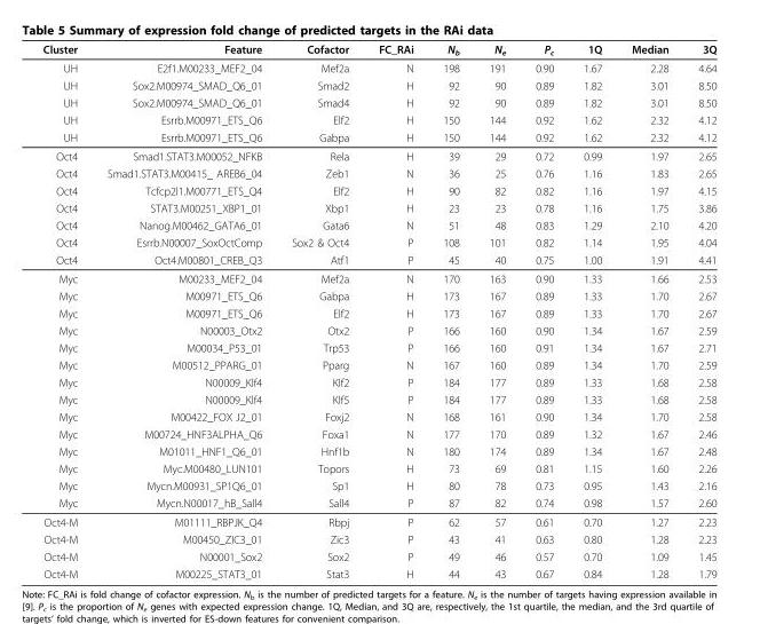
<table><thead><tr><td>Cluster</td><td>Feature</td><td>Cofactor</td><td>FC_RAi</td><td>N<sub>b</sub></td><td>N<sub>e</sub></td><td>P<sub>c</sub></td><td>1Q</td><td>Median</td><td>3Q</td></tr></thead><tbody><tr><td>UH</td><td>E2f1.M00233_MEF2_04</td><td>Mef2a</td><td>N</td><td>198</td><td>191</td><td>0.90</td><td>1.67</td><td>2.28</td><td>4.64</td></tr><tr><td>UH</td><td>Sox2.M00974_SMAD_Q6_01</td><td>Smad2</td><td>H</td><td>92</td><td>90</td><td>0.89</td><td>1.82</td><td>3.01</td><td>8.50</td></tr><tr><td>UH</td><td>Sox2.M00974_SMAD_Q6_01</td><td>Smad4</td><td>H</td><td>92</td><td>90</td><td>0.89</td><td>1.82</td><td>3.01</td><td>8.50</td></tr><tr><td>UH</td><td>Esrrb.M00971_ETS_Q6</td><td>Elf2</td><td>H</td><td>150</td><td>144</td><td>0.92</td><td>1.62</td><td>2.32</td><td>4.12</td></tr><tr><td>UH</td><td>Esrrb.M00971_ETS_Q6</td><td>Gabpa</td><td>H</td><td>150</td><td>144</td><td>0.92</td><td>1.62</td><td>2.32</td><td>4.12</td></tr><tr><td>Oct4</td><td>Smad1.STAT3.M00052_NFKB</td><td>Rela</td><td>H</td><td>39</td><td>29</td><td>0.72</td><td>0.99</td><td>1.97</td><td>2.65</td></tr><tr><td>Oct4</td><td>Smad1.STAT3.M00415_ AREB6_04</td><td>Zeb1</td><td>N</td><td>36</td><td>25</td><td>0.76</td><td>1.16</td><td>1.83</td><td>2.65</td></tr><tr><td>Oct4</td><td>Tcfcp2l1.M00771_ETS_Q4</td><td>Elf2</td><td>H</td><td>90</td><td>82</td><td>0.82</td><td>1.16</td><td>1.97</td><td>4.15</td></tr><tr><td>Oct4</td><td>STAT3.M00251_XBP1_01</td><td>Xbp1</td><td>H</td><td>23</td><td>23</td><td>0.78</td><td>1.16</td><td>1.75</td><td>3.86</td></tr><tr><td>Oct4</td><td>Nanog.M00462_GATA6_01</td><td>Gata6</td><td>N</td><td>51</td><td>48</td><td>0.83</td><td>1.29</td><td>2.10</td><td>4.20</td></tr><tr><td>Oct4</td><td>Esrrb.N00007_SoxOctComp</td><td>Sox2 &amp; Oct4</td><td>P</td><td>108</td><td>101</td><td>0.82</td><td>1.14</td><td>1.95</td><td>4.04</td></tr><tr><td>Oct4</td><td>Oct4.M00801_CREB_Q3</td><td>Atf1</td><td>P</td><td>45</td><td>40</td><td>0.75</td><td>1.00</td><td>1.91</td><td>4.41</td></tr><tr><td>Myc</td><td>M00233_MEF2_04</td><td>Mef2a</td><td>N</td><td>170</td><td>163</td><td>0.90</td><td>1.33</td><td>1.66</td><td>2.53</td></tr><tr><td>Myc</td><td>M00971_ETS_Q6</td><td>Gabpa</td><td>H</td><td>173</td><td>167</td><td>0.89</td><td>1.33</td><td>1.70</td><td>2.67</td></tr><tr><td>Myc</td><td>M00971_ETS_Q6</td><td>Elf2</td><td>H</td><td>173</td><td>167</td><td>0.89</td><td>1.33</td><td>1.70</td><td>2.67</td></tr><tr><td>Myc</td><td>N00003_Otx2</td><td>Otx2</td><td>P</td><td>166</td><td>160</td><td>0.90</td><td>1.34</td><td>1.67</td><td>2.59</td></tr><tr><td>Myc</td><td>M00034_P53_01</td><td>Trp53</td><td>P</td><td>166</td><td>160</td><td>0.91</td><td>1.34</td><td>1.67</td><td>2.71</td></tr><tr><td>Myc</td><td>M00512_PPARG_01</td><td>Pparg</td><td>N</td><td>167</td><td>160</td><td>0.89</td><td>1.34</td><td>1.70</td><td>2.59</td></tr><tr><td>Myc</td><td>N00009_Klf4</td><td>Klf2</td><td>P</td><td>184</td><td>177</td><td>0.89</td><td>1.33</td><td>1.68</td><td>2.58</td></tr><tr><td>Myc</td><td>N00009_Klf4</td><td>Klf5</td><td>P</td><td>184</td><td>177</td><td>0.89</td><td>1.33</td><td>1.68</td><td>2.58</td></tr><tr><td>Myc</td><td>M00422_FOX J2_01</td><td>Foxj2</td><td>N</td><td>168</td><td>161</td><td>0.90</td><td>1.34</td><td>1.70</td><td>2.58</td></tr><tr><td>Myc</td><td>M00724_HNF3ALPHA_Q6</td><td>Foxa1</td><td>N</td><td>177</td><td>170</td><td>0.89</td><td>1.32</td><td>1.67</td><td>2.46</td></tr><tr><td>Myc</td><td>M01011_HNF1_Q6_01</td><td>Hnf1b</td><td>N</td><td>180</td><td>174</td><td>0.89</td><td>1.34</td><td>1.67</td><td>2.48</td></tr><tr><td>Myc</td><td>Myc.M00480_LUN101</td><td>Topors</td><td>H</td><td>73</td><td>69</td><td>0.81</td><td>1.15</td><td>1.60</td><td>2.26</td></tr><tr><td>Myc</td><td>Mycn.M00931_SP1Q6_01</td><td>Sp1</td><td>H</td><td>80</td><td>78</td><td>0.73</td><td>0.95</td><td>1.43</td><td>2.16</td></tr><tr><td>Myc</td><td>Mycn.N00017_hB_Sall4</td><td>Sall4</td><td>P</td><td>87</td><td>82</td><td>0.74</td><td>0.98</td><td>1.57</td><td>2.60</td></tr><tr><td>Oct4-M</td><td>M01111_RBPJK_Q4</td><td>Rbpj</td><td>P</td><td>62</td><td>57</td><td>0.61</td><td>0.70</td><td>1.27</td><td>2.23</td></tr><tr><td>Oct4-M</td><td>M00450_ZIC3_01</td><td>Zic3</td><td>P</td><td>43</td><td>41</td><td>0.63</td><td>0.80</td><td>1.28</td><td>2.23</td></tr><tr><td>Oct4-M</td><td>N00001_Sox2</td><td>Sox2</td><td>P</td><td>49</td><td>46</td><td>0.57</td><td>0.70</td><td>1.09</td><td>1.45</td></tr><tr><td>Oct4-M</td><td>M00225_STAT3_01</td><td>Stat3</td><td>H</td><td>44</td><td>43</td><td>0.67</td><td>0.84</td><td>1.28</td><td>1.79</td></tr></tbody></table>